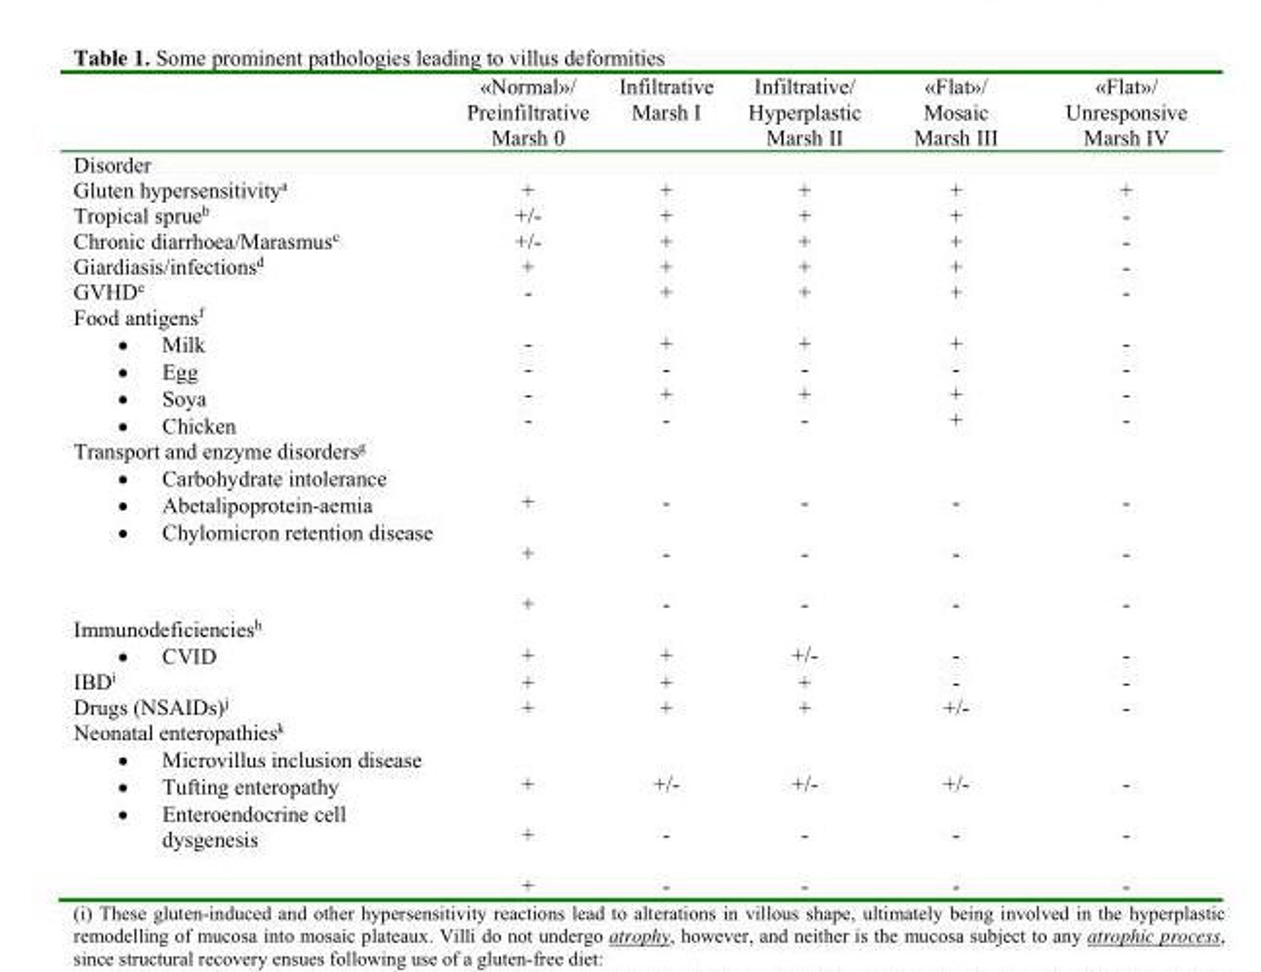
<table><thead><tr><td></td><td>«Normal»/ Preinfiltrative Marsh 0</td><td>Infiltrative Marsh I</td><td>Infiltrative/ Hyperplastic Marsh II</td><td>«Flat»/ Mosaic Marsh III</td><td>«Flat»/ Unresponsive Marsh IV</td></tr></thead><tbody><tr><td colspan="6">Disorder</td></tr><tr><td>Gluten hypersensitivity<sup>a</sup></td><td>+</td><td>+</td><td>+</td><td>+</td><td>+</td></tr><tr><td>Tropical sprue<sup>b</sup></td><td>+/-</td><td>+</td><td>+</td><td>+</td><td>-</td></tr><tr><td>Chronic diarrhoea/Marasmus<sup>c</sup></td><td>+/-</td><td>+</td><td>+</td><td>+</td><td>-</td></tr><tr><td>Giardiasis/infections<sup>d</sup></td><td>+</td><td>+</td><td>+</td><td>+</td><td>-</td></tr><tr><td>GVHD<sup>e</sup></td><td>-</td><td>+</td><td>+</td><td>+</td><td>-</td></tr><tr><td>Food antigensf  Milk  Egg  Soya  Chicken</td><td>- - - -</td><td>+ - + -</td><td>+ - + -</td><td>+ - + +</td><td>- - - -</td></tr><tr><td>Transport and enzyme disordersg  Carbohydrate intolerance  Abetalipoprotein-aemia  Chylomicron retention disease</td><td>+ + +</td><td>- - -</td><td>- - -</td><td>- - -</td><td>- - -</td></tr><tr><td>Immunodeficienciesh  CVID</td><td>+</td><td>+</td><td>+/-</td><td>-</td><td>-</td></tr><tr><td>IBD<sup>i</sup></td><td>+</td><td>+</td><td>+</td><td>-</td><td>-</td></tr><tr><td>Drugs (NSAIDs)<sup>j</sup></td><td>+</td><td>+</td><td>+</td><td>+/-</td><td>-</td></tr><tr><td>Neonatal enteropathiesk  Microvillus inclusion disease  Tufting enteropathy  Enteroendocrine cell dysgenesis</td><td>+ + +</td><td>+/- - -</td><td>+/- - -</td><td>+/- - -</td><td>- - -</td></tr></tbody></table>